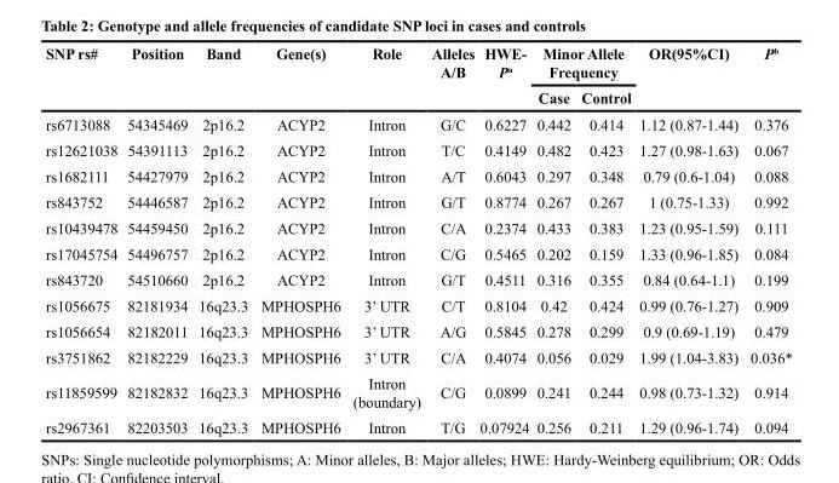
<table><thead><tr><td rowspan="2">SNP rs#</td><td rowspan="2">Position</td><td rowspan="2">Band</td><td rowspan="2">Gene(s)</td><td rowspan="2">Role</td><td rowspan="2">Alleles A/B</td><td rowspan="2">HWE- P<sup>a</sup></td><td colspan="2">Minor Allele Frequency</td><td rowspan="2">OR(95%CI)</td><td rowspan="2">P<sup>b</sup></td></tr><tr><td>Case</td><td>Control</td></tr></thead><tbody><tr><td>rs6713088</td><td>54345469</td><td>2p16.2</td><td>ACYP2</td><td>Intron</td><td>G/C</td><td>0.6227</td><td>0.442</td><td>0.414</td><td>1.12 (0.87-1.44)</td><td>0.376</td></tr><tr><td>rs12621038</td><td>54391113</td><td>2p16.2</td><td>ACYP2</td><td>Intron</td><td>T/C</td><td>0.4149</td><td>0.482</td><td>0.423</td><td>1.27 (0.98-1.63)</td><td>0.067</td></tr><tr><td>rs1682111</td><td>54427979</td><td>2p16.2</td><td>ACYP2</td><td>Intron</td><td>A/T</td><td>0.6043</td><td>0.297</td><td>0.348</td><td>0.79 (0.6-1.04)</td><td>0.088</td></tr><tr><td>rs843752</td><td>54446587</td><td>2p16.2</td><td>ACYP2</td><td>Intron</td><td>G/T</td><td>0.8774</td><td>0.267</td><td>0.267</td><td>1 (0.75-1.33)</td><td>0.992</td></tr><tr><td>rs10439478</td><td>54459450</td><td>2p16.2</td><td>ACYP2</td><td>Intron</td><td>C/A</td><td>0.2374</td><td>0.433</td><td>0.383</td><td>1.23 (0.95-1.59)</td><td>0.111</td></tr><tr><td>rs17045754</td><td>54496757</td><td>2p16.2</td><td>ACYP2</td><td>Intron</td><td>C/G</td><td>0.5465</td><td>0.202</td><td>0.159</td><td>1.33 (0.96-1.85)</td><td>0.084</td></tr><tr><td>rs843720</td><td>54510660</td><td>2p16.2</td><td>ACYP2</td><td>Intron</td><td>G/T</td><td>0.4511</td><td>0.316</td><td>0.355</td><td>0.84 (0.64-1.1)</td><td>0.199</td></tr><tr><td>rs1056675</td><td>82181934</td><td>16q23.3</td><td>MPHOSPH6</td><td>3’ UTR</td><td>C/T</td><td>0.8104</td><td>0.42</td><td>0.424</td><td>0.99 (0.76-1.27)</td><td>0.909</td></tr><tr><td>rs1056654</td><td>82182011</td><td>16q23.3</td><td>MPHOSPH6</td><td>3’ UTR</td><td>A/G</td><td>0.5845</td><td>0.278</td><td>0.299</td><td>0.9 (0.69-1.19)</td><td>0.479</td></tr><tr><td>rs3751862</td><td>82182229</td><td>16q23.3</td><td>MPHOSPH6</td><td>3’ UTR</td><td>C/A</td><td>0.4074</td><td>0.056</td><td>0.029</td><td>1.99 (1.04-3.83)</td><td>0.036*</td></tr><tr><td>rs11859599</td><td>82182832</td><td>16q23.3</td><td>MPHOSPH6</td><td>Intron (boundary)</td><td>C/G</td><td>0.0899</td><td>0.241</td><td>0.244</td><td>0.98 (0.73-1.32)</td><td>0.914</td></tr><tr><td>rs2967361</td><td>82203503</td><td>16q23.3</td><td>MPHOSPH6</td><td>Intron</td><td>T/G</td><td>0.07924</td><td>0.256</td><td>0.211</td><td>1.29 (0.96-1.74)</td><td>0.094</td></tr></tbody></table>